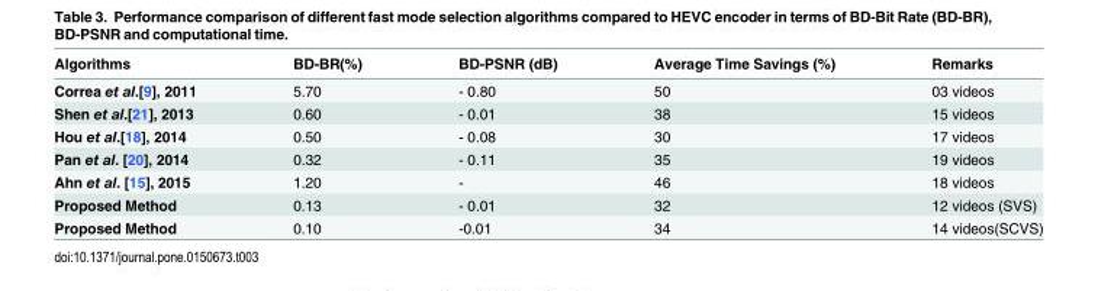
<table><thead><tr><td>Algorithms</td><td>BD-BR(%)</td><td>BD-PSNR (dB)</td><td>Average Time Savings (%)</td><td>Remarks</td></tr></thead><tbody><tr><td>Correa et al.[9], 2011</td><td>5.70</td><td>- 0.80</td><td>50</td><td>03 videos</td></tr><tr><td>Shen et al.[21], 2013</td><td>0.60</td><td>- 0.01</td><td>38</td><td>15 videos</td></tr><tr><td>Hou et al.[18], 2014</td><td>0.50</td><td>- 0.08</td><td>30</td><td>17 videos</td></tr><tr><td>Pan et al. [20], 2014</td><td>0.32</td><td>- 0.11</td><td>35</td><td>19 videos</td></tr><tr><td>Ahn et al. [15], 2015</td><td>1.20</td><td>-</td><td>46</td><td>18 videos</td></tr><tr><td>Proposed Method</td><td>0.13</td><td>- 0.01</td><td>32</td><td>12 videos (SVS)</td></tr><tr><td>Proposed Method</td><td>0.10</td><td>-0.01</td><td>34</td><td>14 videos(SCVS)</td></tr></tbody></table>